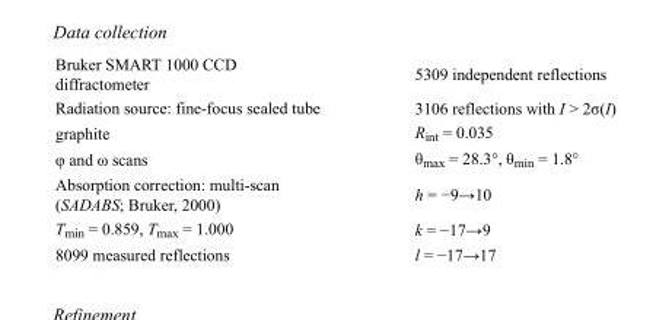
<table><tbody><tr><td>Bruker SMART 1000 CCD diffractometer</td><td>5309 independent reflections</td></tr><tr><td>Radiation source: fine-focus sealed tube</td><td>3106 reflections with I &gt; 2σ(I)</td></tr><tr><td>graphite</td><td>R<sub>int</sub> = 0.035</td></tr><tr><td>φ and ω scans</td><td>θ<sub>max</sub> = 28.3°, θ<sub>min</sub> = 1.8°</td></tr><tr><td>Absorption correction: multi-scan (SADABS; Bruker, 2000)</td><td>h = −9→10</td></tr><tr><td>T<sub>min</sub> = 0.859, T<sub>max</sub> = 1.000</td><td>k = −17→9</td></tr><tr><td>8099 measured reflections</td><td>l = −17→17</td></tr></tbody></table>